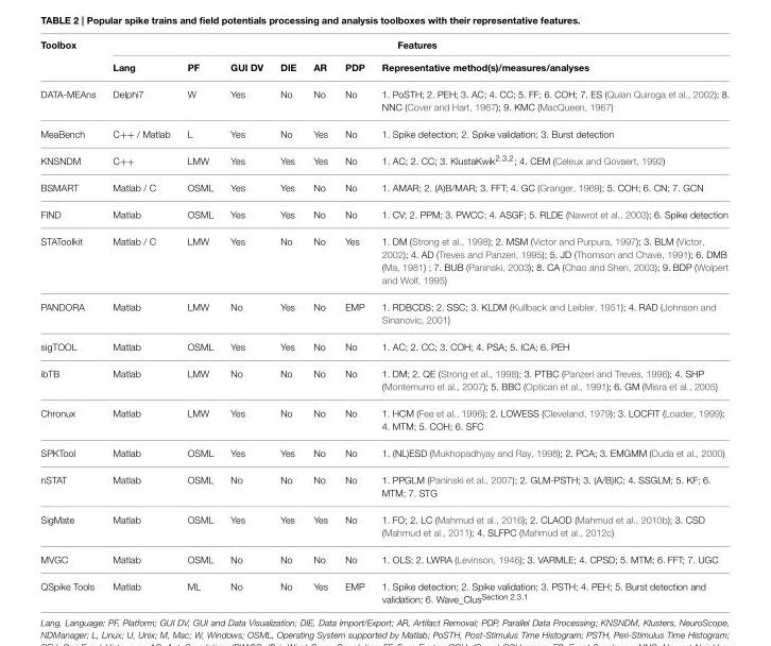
<table><thead><tr><td rowspan="2">Toolbox</td><td colspan="7">Features</td></tr><tr><td>Lang</td><td>PF</td><td>GUI DV</td><td>DIE</td><td>AR</td><td>PDP</td><td>Representative method(s)/measures/analyses</td></tr></thead><tbody><tr><td>DATA-MEAns</td><td>Delphi7</td><td>W</td><td>Yes</td><td>No</td><td>No</td><td>No</td><td>1. PoSTH; 2. PEH; 3. AC; 4. CC; 5. FF; 6. COH; 7. ES (Quian Quiroga et al., 2002); 8. NNC (Cover and Hart, 1967); 9. KMC (MacQueen, 1967)</td></tr><tr><td>MeaBench</td><td>C++ / Matlab</td><td>L</td><td>Yes</td><td>No</td><td>Yes</td><td>No</td><td>1. Spike detection; 2. Spike validation; 3. Burst detection</td></tr><tr><td>KNSNDM</td><td>C++</td><td>LMW</td><td>Yes</td><td>Yes</td><td>Yes</td><td>No</td><td>1. AC; 2. CC; 3. KlustaKwik<sup>2.3.2</sup>; 4. CEM (Celeux and Govaert, 1992)</td></tr><tr><td>BSMART</td><td>Matlab / C</td><td>OSML</td><td>Yes</td><td>Yes</td><td>No</td><td>No</td><td>1. AMAR; 2. (A)B/MAR; 3. FFT; 4. GC (Granger, 1969); 5. COH; 6. CN; 7. GCN</td></tr><tr><td>FIND</td><td>Matlab</td><td>OSML</td><td>Yes</td><td>Yes</td><td>No</td><td>No</td><td>1. CV; 2. PPM; 3. PWCC; 4. ASGF; 5. RLDE (Nawrot et al., 2003); 6. Spike detection</td></tr><tr><td>STAToolkit</td><td>Matlab / C</td><td>LMW</td><td>Yes</td><td>No</td><td>No</td><td>Yes</td><td>1. DM (Strong et al., 1998); 2. MSM (Victor and Purpura, 1997); 3. BLM (Victor, 2002); 4. AD (Treves and Panzeri, 1995); 5. JD (Thomson and Chave, 1991); 6. DMB (Ma, 1981) ; 7. BUB (Paninski, 2003); 8. CA (Chao and Shen, 2003); 9. BDP (Wolpert and Wolf, 1995)</td></tr><tr><td>PANDORA</td><td>Matlab</td><td>LMW</td><td>No</td><td>Yes</td><td>No</td><td>EMP</td><td>1. RDBCDS; 2. SSC; 3. KLDM (Kullback and Leibler, 1951); 4. RAD (Johnson and Sinanovic, 2001)</td></tr><tr><td>sigTOOL</td><td>Matlab</td><td>OSML</td><td>Yes</td><td>Yes</td><td>No</td><td>No</td><td>1. AC; 2. CC; 3. COH; 4. PSA; 5. ICA; 6. PEH</td></tr><tr><td>ibTB</td><td>Matlab</td><td>LMW</td><td>No</td><td>No</td><td>No</td><td>No</td><td>1. DM; 2. QE (Strong et al., 1998); 3. PTBC (Panzeri and Treves, 1996); 4. SHP (Montemurro et al., 2007); 5. BBC (Optican et al., 1991); 6. GM (Misra et al., 2005)</td></tr><tr><td>Chronux</td><td>Matlab</td><td>LMW</td><td>Yes</td><td>No</td><td>No</td><td>No</td><td>1. HCM (Fee et al., 1996); 2. LOWESS (Cleveland, 1979); 3. LOCFIT (Loader, 1999); 4. MTM; 5. COH; 6. SFC</td></tr><tr><td>SPKTool</td><td>Matlab</td><td>OSML</td><td>Yes</td><td>Yes</td><td>No</td><td>No</td><td>1. (NL)ESD (Mukhopadhyay and Ray, 1998); 2. PCA; 3. EMGMM (Duda et al., 2000)</td></tr><tr><td>nSTAT</td><td>Matlab</td><td>OSML</td><td>No</td><td>No</td><td>No</td><td>No</td><td>1. PPGLM (Paninski et al., 2007); 2. GLM-PSTH; 3. (A/B)IC; 4. SSGLM; 5. KF; 6. MTM; 7. STG</td></tr><tr><td>SigMate</td><td>Matlab</td><td>OSML</td><td>Yes</td><td>Yes</td><td>Yes</td><td>No</td><td>1. FO; 2. LC (Mahmud et al., 2016); 2. CLAOD (Mahmud et al., 2010b); 3. CSD (Mahmud et al., 2011); 4. SLFPC (Mahmud et al., 2012c)</td></tr><tr><td>MVGC</td><td>Matlab</td><td>OSML</td><td>No</td><td>No</td><td>No</td><td>No</td><td>1. OLS; 2. LWRA (Levinson, 1946); 3. VARMLE; 4. CPSD; 5. MTM; 6. FFT; 7. UGC</td></tr><tr><td>QSpike Tools</td><td>Matlab</td><td>ML</td><td>No</td><td>No</td><td>Yes</td><td>EMP</td><td>1. Spike detection; 2. Spike validation; 3. PSTH; 4. PEH; 5. Burst detection and validation; 6. Wave_Clus<sup>Section 2.3.1</sup></td></tr></tbody></table>